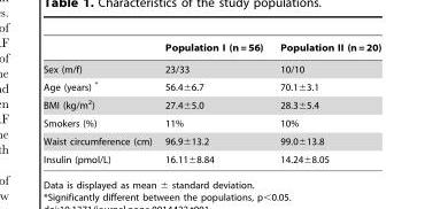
<table><thead><tr><td></td><td>Population I (n = 56)</td><td>Population II (n = 20)</td></tr></thead><tbody><tr><td>Sex (m/f)</td><td>23/33</td><td>10/10</td></tr><tr><td>Age (years) *</td><td>56.4±6.7</td><td>70.1±3.1</td></tr><tr><td>BMI (kg/m<sup>2</sup>)</td><td>27.4±5.0</td><td>28.3±5.4</td></tr><tr><td>Smokers (%)</td><td>11%</td><td>10%</td></tr><tr><td>Waist circumference (cm)</td><td>96.9±13.2</td><td>99.0±13.8</td></tr><tr><td>Insulin (pmol/L)</td><td>16.11±8.84</td><td>14.24±8.05</td></tr></tbody></table>